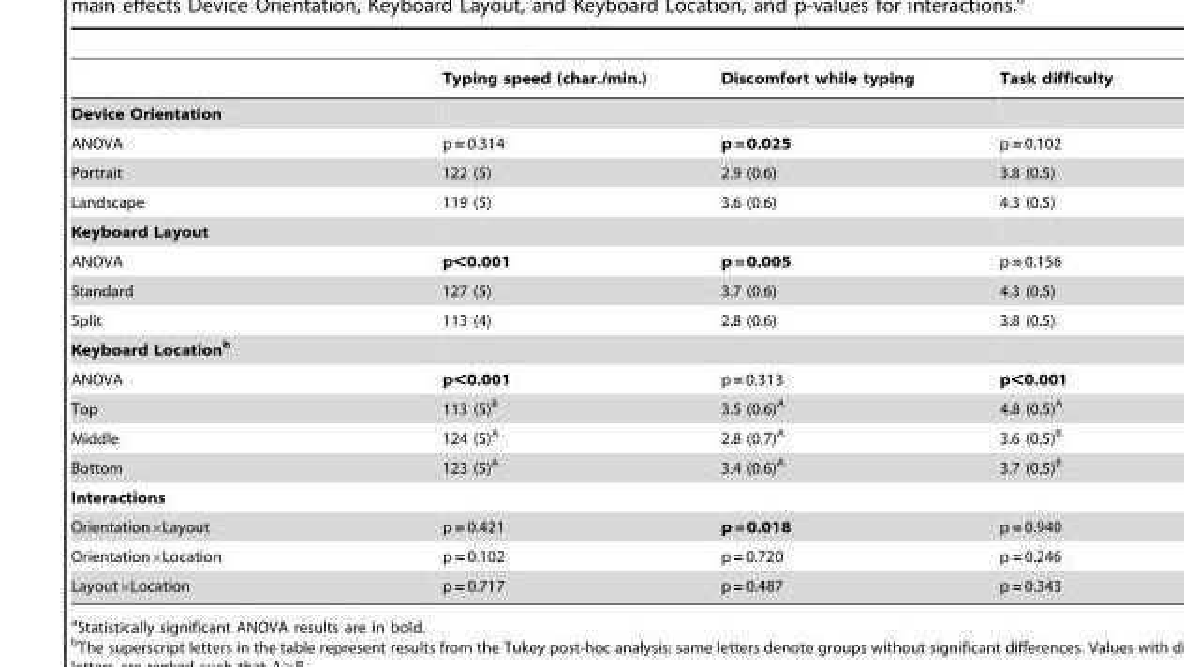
<table><thead><tr><td></td><td>Typing speed (char./min.)</td><td>Discomfort while typing</td><td>Task difficulty</td></tr></thead><tbody><tr><td colspan="4">Device Orientation</td></tr><tr><td>ANOVA</td><td>p = 0.314</td><td>p = 0.025</td><td>p = 0.102</td></tr><tr><td>Portrait</td><td>122 (5)</td><td>2.9 (0.6)</td><td>3.8 (0.5)</td></tr><tr><td>Landscape</td><td>119 (5)</td><td>3.6 (0.6)</td><td>4.3 (0.5)</td></tr><tr><td colspan="4">Keyboard Layout</td></tr><tr><td>ANOVA</td><td>p&lt;0.001</td><td>p = 0.005</td><td>p = 0.156</td></tr><tr><td>Standard</td><td>127 (5)</td><td>3.7 (0.6)</td><td>4.3 (0.5)</td></tr><tr><td>Split</td><td>113 (4)</td><td>2.8 (0.6)</td><td>3.8 (0.5)</td></tr><tr><td colspan="4">Keyboard Locationb</td></tr><tr><td>ANOVA</td><td>p&lt;0.001</td><td>p = 0.313</td><td>p&lt;0.001</td></tr><tr><td>Top</td><td>113 (5)<sup>B</sup></td><td>3.5 (0.6)<sup>A</sup></td><td>4.8 (0.5)<sup>A</sup></td></tr><tr><td>Middle</td><td>124 (5)<sup>A</sup></td><td>2.8 (0.7)<sup>A</sup></td><td>3.6 (0.5)<sup>B</sup></td></tr><tr><td>Bottom</td><td>123 (5)<sup>A</sup></td><td>3.4 (0.6)<sup>A</sup></td><td>3.7 (0.5)<sup>B</sup></td></tr><tr><td colspan="4">Interactions</td></tr><tr><td>Orientation×Layout</td><td>p = 0.421</td><td>p = 0.018</td><td>p = 0.940</td></tr><tr><td>Orientation×Location</td><td>p = 0.102</td><td>p = 0.720</td><td>p = 0.246</td></tr><tr><td>Layout×Location</td><td>p = 0.717</td><td>p = 0.487</td><td>p = 0.343</td></tr></tbody></table>